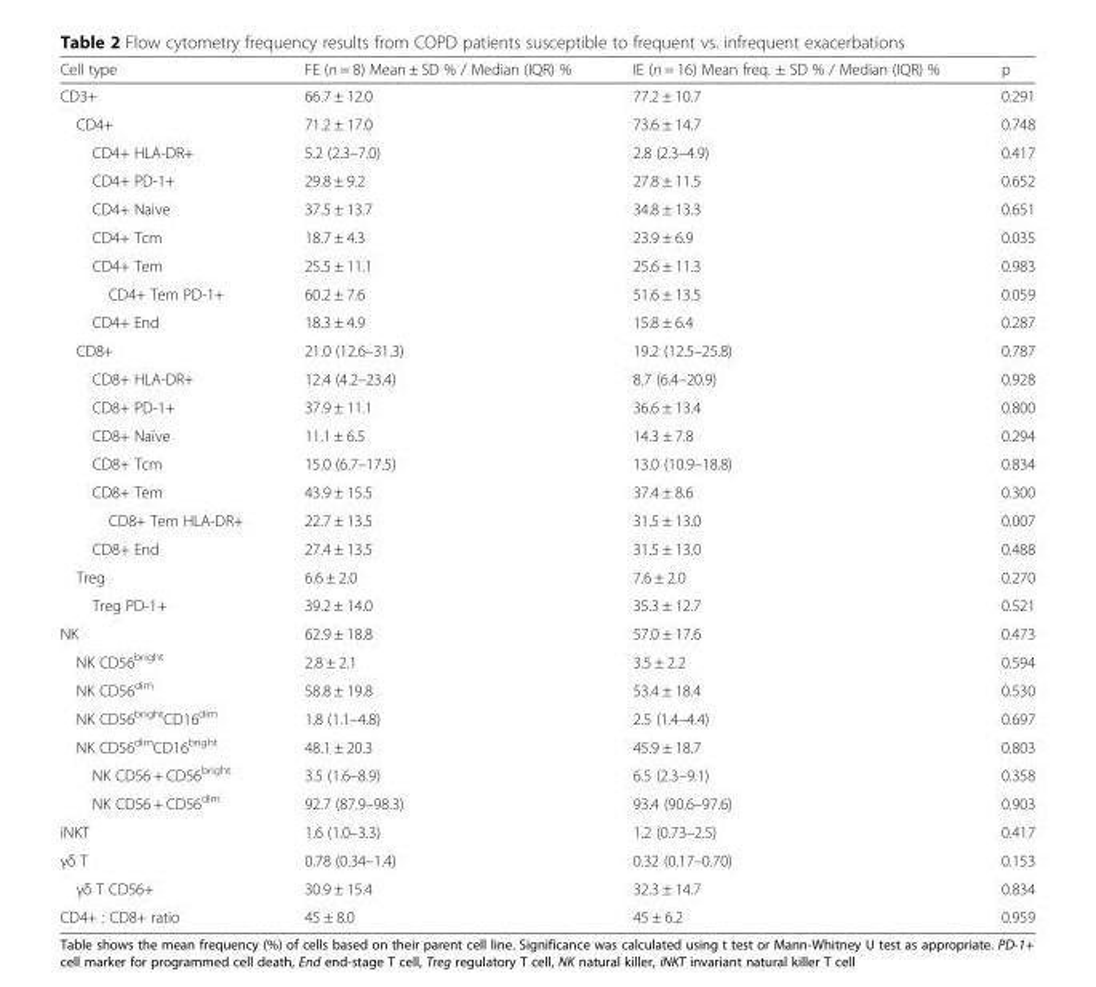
<table><thead><tr><td>Cell type</td><td>FE (n = 8) Mean ± SD % / Median (IQR) %</td><td>IE (n = 16) Mean freq. ± SD % / Median (IQR) %</td><td>p</td></tr></thead><tbody><tr><td>CD3+</td><td>66.7 ± 12.0</td><td>77.2 ± 10.7</td><td>0.291</td></tr><tr><td>CD4+</td><td>71.2 ± 17.0</td><td>73.6 ± 14.7</td><td>0.748</td></tr><tr><td>CD4+ HLA-DR+</td><td>5.2 (2.3–7.0)</td><td>2.8 (2.3–4.9)</td><td>0.417</td></tr><tr><td>CD4+ PD-1+</td><td>29.8 ± 9.2</td><td>27.8 ± 11.5</td><td>0.652</td></tr><tr><td>CD4+ Naive</td><td>37.5 ± 13.7</td><td>34.8 ± 13.3</td><td>0.651</td></tr><tr><td>CD4+ Tcm</td><td>18.7 ± 4.3</td><td>23.9 ± 6.9</td><td>0.035</td></tr><tr><td>CD4+ Tem</td><td>25.5 ± 11.1</td><td>25.6 ± 11.3</td><td>0.983</td></tr><tr><td>CD4+ Tem PD-1+</td><td>60.2 ± 7.6</td><td>51.6 ± 13.5</td><td>0.059</td></tr><tr><td>CD4+ End</td><td>18.3 ± 4.9</td><td>15.8 ± 6.4</td><td>0.287</td></tr><tr><td>CD8+</td><td>21.0 (12.6–31.3)</td><td>19.2 (12.5–25.8)</td><td>0.787</td></tr><tr><td>CD8+ HLA-DR+</td><td>12.4 (4.2–23.4)</td><td>8.7 (6.4–20.9)</td><td>0.928</td></tr><tr><td>CD8+ PD-1+</td><td>37.9 ± 11.1</td><td>36.6 ± 13.4</td><td>0.800</td></tr><tr><td>CD8+ Naïve</td><td>11.1 ± 6.5</td><td>14.3 ± 7.8</td><td>0.294</td></tr><tr><td>CD8+ Tcm</td><td>15.0 (6.7–17.5)</td><td>13.0 (10.9–18.8)</td><td>0.834</td></tr><tr><td>CD8+ Tem</td><td>43.9 ± 15.5</td><td>37.4 ± 8.6</td><td>0.300</td></tr><tr><td>CD8+ Tem HLA-DR+</td><td>22.7 ± 13.5</td><td>31.5 ± 13.0</td><td>0.007</td></tr><tr><td>CD8+ End</td><td>27.4 ± 13.5</td><td>31.5 ± 13.0</td><td>0.488</td></tr><tr><td>Treg</td><td>6.6 ± 2.0</td><td>7.6 ± 2.0</td><td>0.270</td></tr><tr><td>Treg PD-1+</td><td>39.2 ± 14.0</td><td>35.3 ± 12.7</td><td>0.521</td></tr><tr><td>NK</td><td>62.9 ± 18.8</td><td>57.0 ± 17.6</td><td>0.473</td></tr><tr><td>NK CD56<sup>bright</sup></td><td>2.8 ± 2.1</td><td>3.5 ± 2.2</td><td>0.594</td></tr><tr><td>NK CD56<sup>dim</sup></td><td>58.8 ± 19.8</td><td>53.4 ± 18.4</td><td>0.530</td></tr><tr><td>NK CD56<sup>bright</sup>CD16<sup>dim</sup></td><td>1.8 (1.1–4.8)</td><td>2.5 (1.4–4.4)</td><td>0.697</td></tr><tr><td>NK CD56<sup>dim</sup>CD16<sup>bright</sup></td><td>48.1 ± 20.3</td><td>45.9 ± 18.7</td><td>0.803</td></tr><tr><td>NK CD56 + CD56<sup>bright</sup></td><td>3.5 (1.6–8.9)</td><td>6.5 (2.3–9.1)</td><td>0.358</td></tr><tr><td>NK CD56 + CD56<sup>dim</sup></td><td>92.7 (87.9–98.3)</td><td>93.4 (90.6–97.6)</td><td>0.903</td></tr><tr><td>iNKT</td><td>1.6 (1.0–3.3)</td><td>1.2 (0.73–2.5)</td><td>0.417</td></tr><tr><td>γδ T</td><td>0.78 (0.34–1.4)</td><td>0.32 (0.17–0.70)</td><td>0.153</td></tr><tr><td>γδ T CD56+</td><td>30.9 ± 15.4</td><td>32.3 ± 14.7</td><td>0.834</td></tr><tr><td>CD4+ : CD8+ ratio</td><td>45 ± 8.0</td><td>45 ± 6.2</td><td>0.959</td></tr></tbody></table>